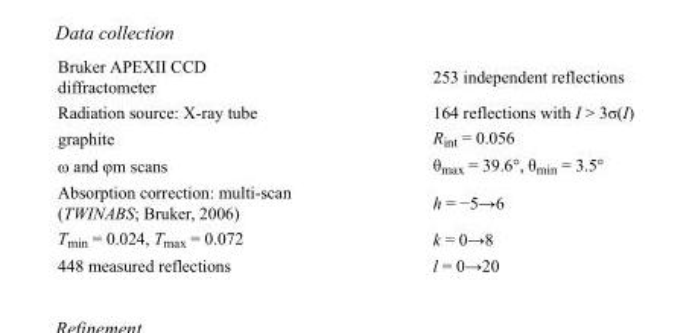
<table><tbody><tr><td>Bruker APEXII CCD diffractometer</td><td>253 independent reflections</td></tr><tr><td>Radiation source: X-ray tube</td><td>164 reflections with I &gt; 3σ(I)</td></tr><tr><td>graphite</td><td>R<sub>int</sub> = 0.056</td></tr><tr><td>ω and φm scans</td><td>θ<sub>max</sub> = 39.6°, θ<sub>min</sub> = 3.5°</td></tr><tr><td>Absorption correction: multi-scan (TWINABS; Bruker, 2006)</td><td>h = −5→6</td></tr><tr><td>T<sub>min</sub> = 0.024, T<sub>max</sub> = 0.072</td><td>k = 0→8</td></tr><tr><td>448 measured reflections</td><td>l = 0→20</td></tr></tbody></table>